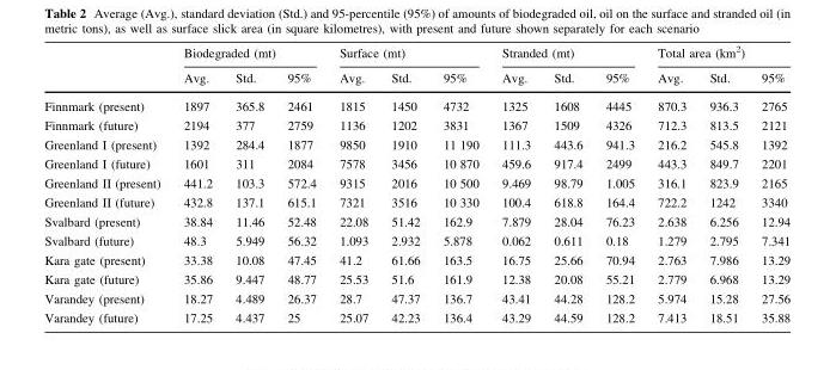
<table><thead><tr><td rowspan="2"></td><td colspan="3">Biodegraded (mt)</td><td colspan="3">Surface (mt)</td><td colspan="3">Stranded (mt)</td><td colspan="3">Total area (km<sup>2</sup>)</td></tr><tr><td>Avg.</td><td>Std.</td><td>95%</td><td>Avg.</td><td>Std.</td><td>95%</td><td>Avg.</td><td>Std.</td><td>95%</td><td>Avg.</td><td>Std.</td><td>95%</td></tr></thead><tbody><tr><td>Finnmark (present)</td><td>1897</td><td>365.8</td><td>2461</td><td>1815</td><td>1450</td><td>4732</td><td>1325</td><td>1608</td><td>4445</td><td>870.3</td><td>936.3</td><td>2765</td></tr><tr><td>Finnmark (future)</td><td>2194</td><td>377</td><td>2759</td><td>1136</td><td>1202</td><td>3831</td><td>1367</td><td>1509</td><td>4326</td><td>712.3</td><td>813.5</td><td>2121</td></tr><tr><td>Greenland I (present)</td><td>1392</td><td>284.4</td><td>1877</td><td>9850</td><td>1910</td><td>11 190</td><td>111.3</td><td>443.6</td><td>941.3</td><td>216.2</td><td>545.8</td><td>1392</td></tr><tr><td>Greenland I (future)</td><td>1601</td><td>311</td><td>2084</td><td>7578</td><td>3456</td><td>10 870</td><td>459.6</td><td>917.4</td><td>2499</td><td>443.3</td><td>849.7</td><td>2201</td></tr><tr><td>Greenland II (present)</td><td>441.2</td><td>103.3</td><td>572.4</td><td>9315</td><td>2016</td><td>10 500</td><td>9.469</td><td>98.79</td><td>1.005</td><td>316.1</td><td>823.9</td><td>2165</td></tr><tr><td>Greenland II (future)</td><td>432.8</td><td>137.1</td><td>615.1</td><td>7321</td><td>3516</td><td>10 330</td><td>100.4</td><td>618.8</td><td>164.4</td><td>722.2</td><td>1242</td><td>3340</td></tr><tr><td>Svalbard (present)</td><td>38.84</td><td>11.46</td><td>52.48</td><td>22.08</td><td>51.42</td><td>162.9</td><td>7.879</td><td>28.04</td><td>76.23</td><td>2.638</td><td>6.256</td><td>12.94</td></tr><tr><td>Svalbard (future)</td><td>48.3</td><td>5.949</td><td>56.32</td><td>1.093</td><td>2.932</td><td>5.878</td><td>0.062</td><td>0.611</td><td>0.18</td><td>1.279</td><td>2.795</td><td>7.341</td></tr><tr><td>Kara gate (present)</td><td>33.38</td><td>10.08</td><td>47.45</td><td>41.2</td><td>61.66</td><td>163.5</td><td>16.75</td><td>25.66</td><td>70.94</td><td>2.763</td><td>7.986</td><td>13.29</td></tr><tr><td>Kara gate (future)</td><td>35.86</td><td>9.447</td><td>48.77</td><td>25.53</td><td>51.6</td><td>161.9</td><td>12.38</td><td>20.08</td><td>55.21</td><td>2.779</td><td>6.968</td><td>13.29</td></tr><tr><td>Varandey (present)</td><td>18.27</td><td>4.489</td><td>26.37</td><td>28.7</td><td>47.37</td><td>136.7</td><td>43.41</td><td>44.28</td><td>128.2</td><td>5.974</td><td>15.28</td><td>27.56</td></tr><tr><td>Varandey (future)</td><td>17.25</td><td>4.437</td><td>25</td><td>25.07</td><td>42.23</td><td>136.4</td><td>43.29</td><td>44.59</td><td>128.2</td><td>7.413</td><td>18.51</td><td>35.88</td></tr></tbody></table>